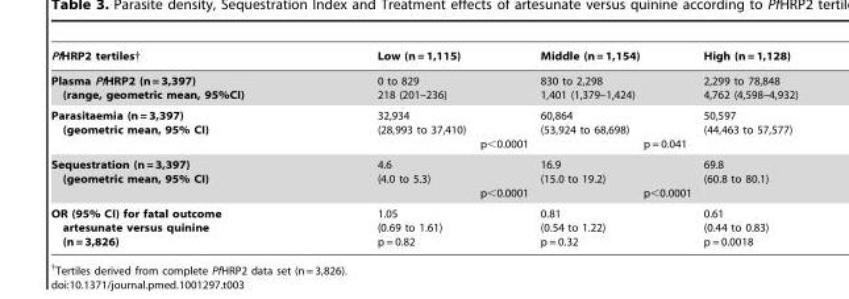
<table><thead><tr><td>PfHRP2 tertiles†</td><td>Low (n = 1,115)</td><td>Middle (n = 1,154)</td><td>High (n = 1,128)</td></tr></thead><tbody><tr><td>Plasma PfHRP2 (n = 3,397) (range, geometric mean, 95%CI)</td><td>0 to 829 218 (201–236)</td><td>830 to 2,298 1,401 (1,379–1,424)</td><td>2,299 to 78,848 4,762 (4,598–4,932)</td></tr><tr><td>Parasitaemia (n = 3,397) (geometric mean, 95% CI)</td><td>32,934 (28,993 to 37,410) p&lt;0.0001</td><td>60,864 (53,924 to 68,698) p = 0.041</td><td>50,597 (44,463 to 57,577)</td></tr><tr><td>Sequestration (n = 3,397) (geometric mean, 95% CI)</td><td>4.6 (4.0 to 5.3) p&lt;0.0001</td><td>16.9 (15.0 to 19.2) p&lt;0.0001</td><td>69.8 (60.8 to 80.1)</td></tr><tr><td>OR (95% CI) for fatal outcome artesunate versus quinine (n = 3,826)</td><td>1.05 (0.69 to 1.61) p = 0.82</td><td>0.81 (0.54 to 1.22) p = 0.32</td><td>0.61 (0.44 to 0.83) p = 0.0018</td></tr></tbody></table>